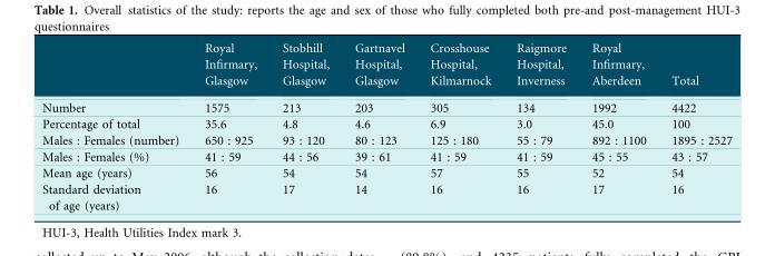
<table><thead><tr><td></td><td>Royal Infirmary, Glasgow</td><td>Stobhill Hospital, Glasgow</td><td>Gartnavel Hospital, Glasgow</td><td>Crosshouse Hospital, Kilmarnock</td><td>Raigmore Hospital, Inverness</td><td>Royal Infirmary, Aberdeen</td><td>Total</td></tr></thead><tbody><tr><td>Number</td><td>1575</td><td>213</td><td>203</td><td>305</td><td>134</td><td>1992</td><td>4422</td></tr><tr><td>Percentage of total</td><td>35.6</td><td>4.8</td><td>4.6</td><td>6.9</td><td>3.0</td><td>45.0</td><td>100</td></tr><tr><td>Males : Females (number)</td><td>650 : 925</td><td>93 : 120</td><td>80 : 123</td><td>125 : 180</td><td>55 : 79</td><td>892 : 1100</td><td>1895 : 2527</td></tr><tr><td>Males : Females (%)</td><td>41 : 59</td><td>44 : 56</td><td>39 : 61</td><td>41 : 59</td><td>41 : 59</td><td>45 : 55</td><td>43 : 57</td></tr><tr><td>Mean age (years)</td><td>56</td><td>54</td><td>54</td><td>57</td><td>55</td><td>52</td><td>54</td></tr><tr><td>Standard deviation of age (years)</td><td>16</td><td>17</td><td>14</td><td>16</td><td>16</td><td>17</td><td>16</td></tr></tbody></table>